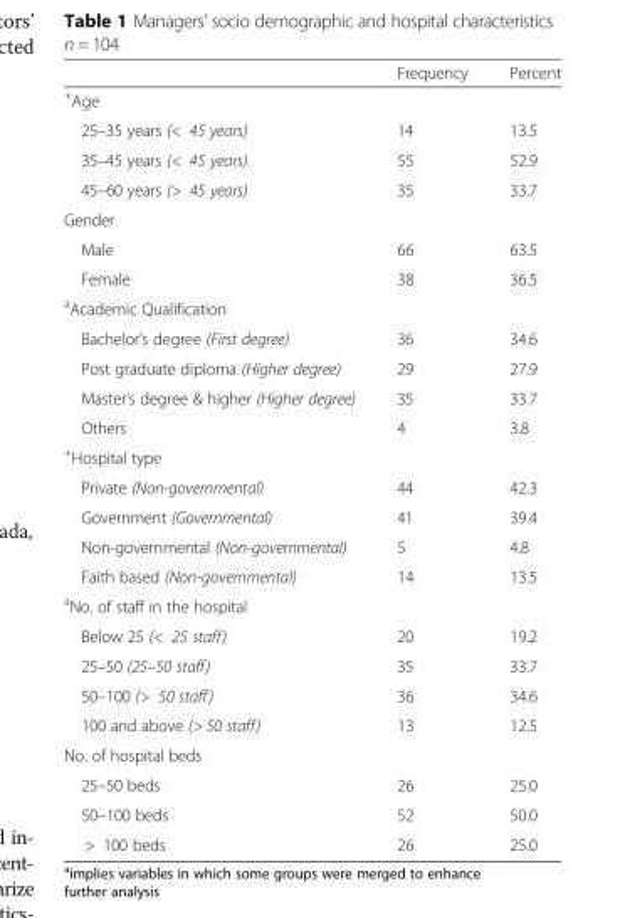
<table><thead><tr><td></td><td>Frequency</td><td>Percent</td></tr></thead><tbody><tr><td colspan="3"><sup>+</sup>Age</td></tr><tr><td>25–35 years (&lt; 45 years)</td><td>14</td><td>13.5</td></tr><tr><td>35–45 years (&lt; 45 years)</td><td>55</td><td>52.9</td></tr><tr><td>45–60 years (&gt; 45 years)</td><td>35</td><td>33.7</td></tr><tr><td colspan="3">Gender</td></tr><tr><td>Male</td><td>66</td><td>63.5</td></tr><tr><td>Female</td><td>38</td><td>36.5</td></tr><tr><td colspan="3"><sup>a</sup>Academic Qualification</td></tr><tr><td>Bachelor’s degree (First degree)</td><td>36</td><td>34.6</td></tr><tr><td>Post graduate diploma (Higher degree)</td><td>29</td><td>27.9</td></tr><tr><td>Master’s degree &amp; higher (Higher degree)</td><td>35</td><td>33.7</td></tr><tr><td>Others</td><td>4</td><td>3.8</td></tr><tr><td colspan="3"><sup>+</sup>Hospital type</td></tr><tr><td>Private (Non-governmental)</td><td>44</td><td>42.3</td></tr><tr><td>Government (Governmental)</td><td>41</td><td>39.4</td></tr><tr><td>Non-governmental (Non-governmental)</td><td>5</td><td>4.8</td></tr><tr><td>Faith based (Non-governmental)</td><td>14</td><td>13.5</td></tr><tr><td colspan="3"><sup>a</sup>No. of staff in the hospital</td></tr><tr><td>Below 25 (&lt; 25 staff)</td><td>20</td><td>19.2</td></tr><tr><td>25–50 (25–50 staff)</td><td>35</td><td>33.7</td></tr><tr><td>50–100 (&gt; 50 staff)</td><td>36</td><td>34.6</td></tr><tr><td>100 and above (&gt; 50 staff)</td><td>13</td><td>12.5</td></tr><tr><td colspan="3">No. of hospital beds</td></tr><tr><td>25–50 beds</td><td>26</td><td>25.0</td></tr><tr><td>50–100 beds</td><td>52</td><td>50.0</td></tr><tr><td>&gt; 100 beds</td><td>26</td><td>25.0</td></tr></tbody></table>